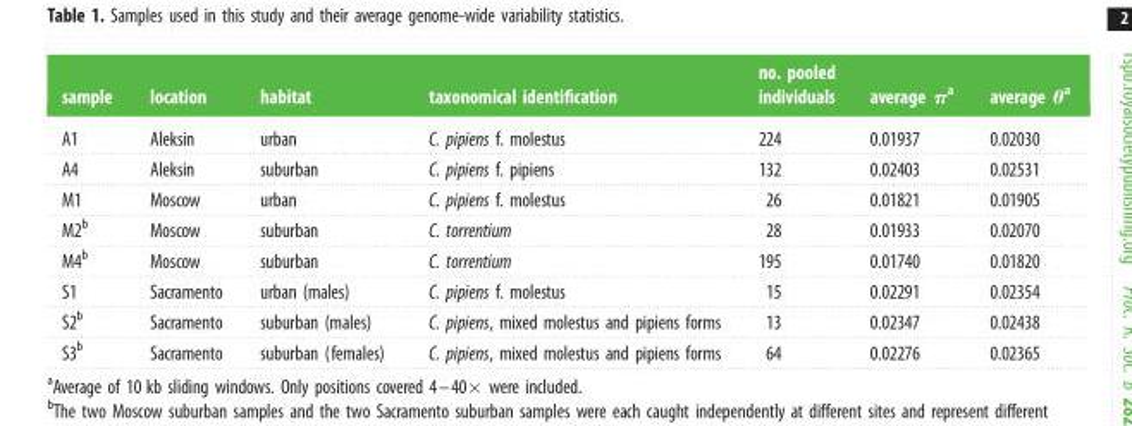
<table><thead><tr><td>sample</td><td>location</td><td>habitat</td><td>taxonomical identification</td><td>no. pooled individuals</td><td>average π<sup>a</sup></td><td>average θ<sup>a</sup></td></tr></thead><tbody><tr><td>A1</td><td>Aleksin</td><td>urban</td><td>C. pipiens f. molestus</td><td>224</td><td>0.01937</td><td>0.02030</td></tr><tr><td>A4</td><td>Aleksin</td><td>suburban</td><td>C. pipiens f. pipiens</td><td>132</td><td>0.02403</td><td>0.02531</td></tr><tr><td>M1</td><td>Moscow</td><td>urban</td><td>C. pipiens f. molestus</td><td>26</td><td>0.01821</td><td>0.01905</td></tr><tr><td>M2<sup>b</sup></td><td>Moscow</td><td>suburban</td><td>C. torrentium</td><td>28</td><td>0.01933</td><td>0.02070</td></tr><tr><td>M4<sup>b</sup></td><td>Moscow</td><td>suburban</td><td>C. torrentium</td><td>195</td><td>0.01740</td><td>0.01820</td></tr><tr><td>S1</td><td>Sacramento</td><td>urban (males)</td><td>C. pipiens f. molestus</td><td>15</td><td>0.02291</td><td>0.02354</td></tr><tr><td>S2<sup>b</sup></td><td>Sacramento</td><td>suburban (males)</td><td>C. pipiens, mixed molestus and pipiens forms</td><td>13</td><td>0.02347</td><td>0.02438</td></tr><tr><td>S3<sup>b</sup></td><td>Sacramento</td><td>suburban (females)</td><td>C. pipiens, mixed molestus and pipiens forms</td><td>64</td><td>0.02276</td><td>0.02365</td></tr></tbody></table>